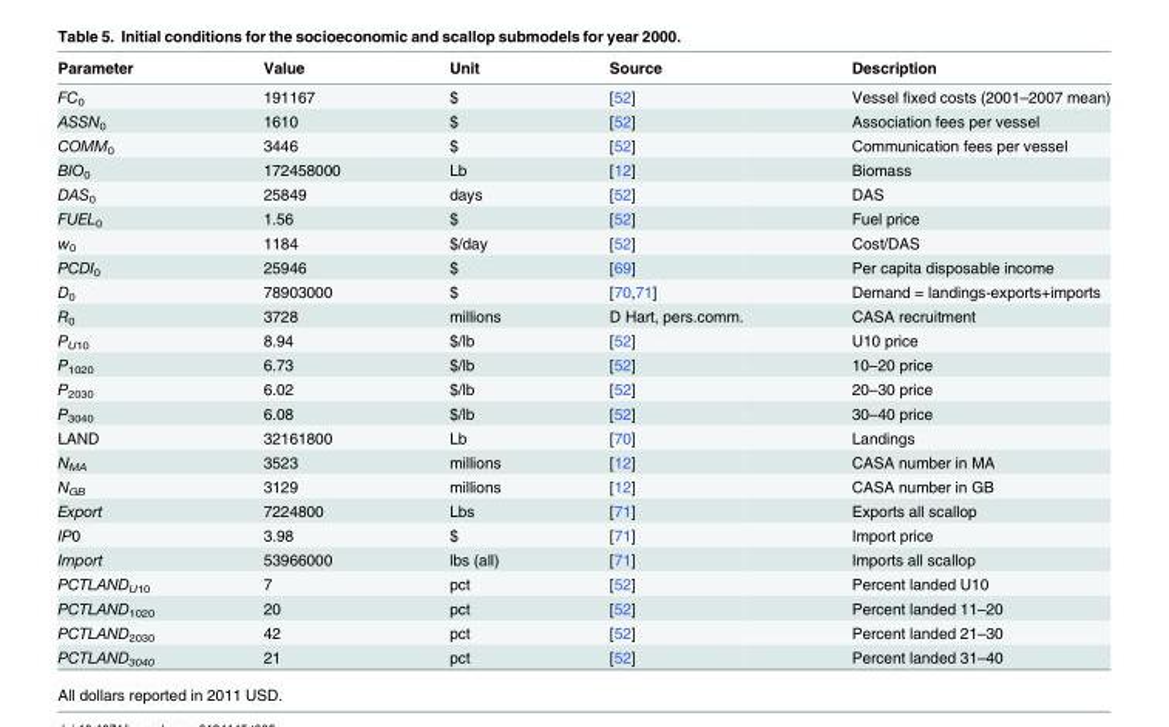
<table><thead><tr><td>Parameter</td><td>Value</td><td>Unit</td><td>Source</td><td>Description</td></tr></thead><tbody><tr><td>FC<sub>0</sub></td><td>191167</td><td>$</td><td>[52]</td><td>Vessel fixed costs (2001–2007 mean)</td></tr><tr><td>ASSN<sub>0</sub></td><td>1610</td><td>$</td><td>[52]</td><td>Association fees per vessel</td></tr><tr><td>COMM<sub>0</sub></td><td>3446</td><td>$</td><td>[52]</td><td>Communication fees per vessel</td></tr><tr><td>BIO<sub>0</sub></td><td>172458000</td><td>Lb</td><td>[12]</td><td>Biomass</td></tr><tr><td>DAS<sub>0</sub></td><td>25849</td><td>days</td><td>[52]</td><td>DAS</td></tr><tr><td>FUEL<sub>0</sub></td><td>1.56</td><td>$</td><td>[52]</td><td>Fuel price</td></tr><tr><td>w<sub>0</sub></td><td>1184</td><td>$/day</td><td>[52]</td><td>Cost/DAS</td></tr><tr><td>PCDI<sub>0</sub></td><td>25946</td><td>$</td><td>[69]</td><td>Per capita disposable income</td></tr><tr><td>D<sub>0</sub></td><td>78903000</td><td>$</td><td>[70,71]</td><td>Demand = landings-exports+imports</td></tr><tr><td>R<sub>0</sub></td><td>3728</td><td>millions</td><td>D Hart, pers.comm.</td><td>CASA recruitment</td></tr><tr><td>P<sub>U10</sub></td><td>8.94</td><td>$/lb</td><td>[52]</td><td>U10 price</td></tr><tr><td>P<sub>1020</sub></td><td>6.73</td><td>$/lb</td><td>[52]</td><td>10–20 price</td></tr><tr><td>P<sub>2030</sub></td><td>6.02</td><td>$/lb</td><td>[52]</td><td>20–30 price</td></tr><tr><td>P<sub>3040</sub></td><td>6.08</td><td>$/lb</td><td>[52]</td><td>30–40 price</td></tr><tr><td>LAND</td><td>32161800</td><td>Lb</td><td>[70]</td><td>Landings</td></tr><tr><td>N<sub>MA</sub></td><td>3523</td><td>millions</td><td>[12]</td><td>CASA number in MA</td></tr><tr><td>N<sub>GB</sub></td><td>3129</td><td>millions</td><td>[12]</td><td>CASA number in GB</td></tr><tr><td>Export</td><td>7224800</td><td>Lbs</td><td>[71]</td><td>Exports all scallop</td></tr><tr><td>IP0</td><td>3.98</td><td>$</td><td>[71]</td><td>Import price</td></tr><tr><td>Import</td><td>53966000</td><td>lbs (all)</td><td>[71]</td><td>Imports all scallop</td></tr><tr><td>PCTLAND<sub>U10</sub></td><td>7</td><td>pct</td><td>[52]</td><td>Percent landed U10</td></tr><tr><td>PCTLAND<sub>1020</sub></td><td>20</td><td>pct</td><td>[52]</td><td>Percent landed 11–20</td></tr><tr><td>PCTLAND<sub>2030</sub></td><td>42</td><td>pct</td><td>[52]</td><td>Percent landed 21–30</td></tr><tr><td>PCTLAND<sub>3040</sub></td><td>21</td><td>pct</td><td>[52]</td><td>Percent landed 31–40</td></tr></tbody></table>